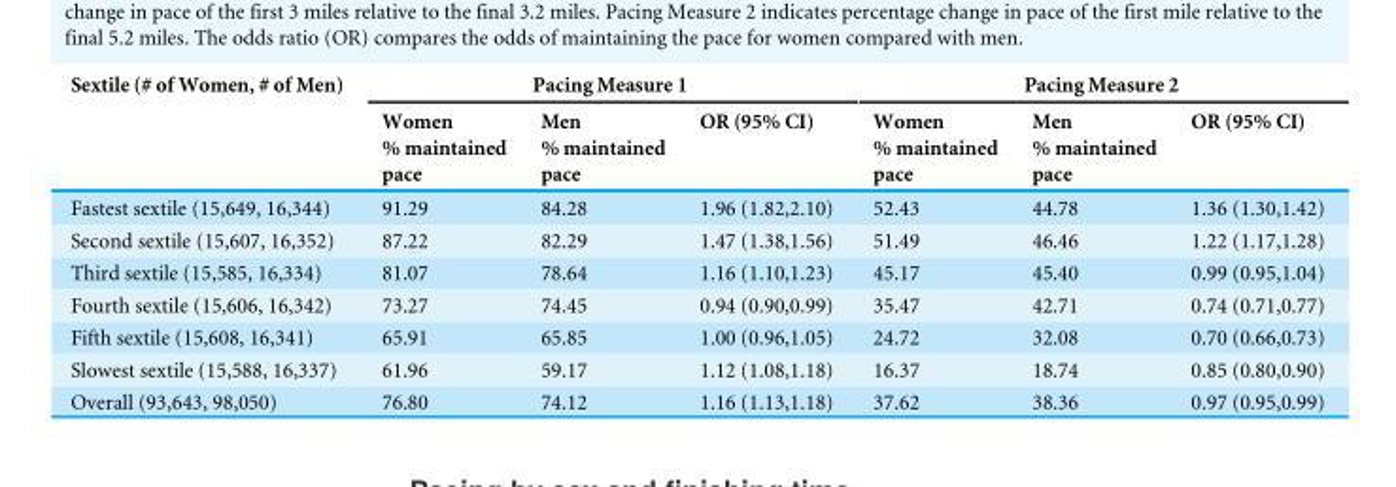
<table><thead><tr><td rowspan="3">Sextile (# of Women, # of Men)</td><td colspan="3">Pacing Measure 1</td><td colspan="3">Pacing Measure 2</td></tr><tr><td rowspan="2">Women % maintained pace</td><td rowspan="2">Men % maintained pace</td><td rowspan="2">OR (95% CI)</td><td rowspan="2">Women % maintained pace</td><td rowspan="2">Men % maintained pace</td><td rowspan="2">OR (95% CI)</td></tr><tr></tr></thead><tbody><tr><td>Fastest sextile (15,649, 16,344)</td><td>91.29</td><td>84.28</td><td>1.96 (1.82,2.10)</td><td>52.43</td><td>44.78</td><td>1.36 (1.30,1.42)</td></tr><tr><td>Second sextile (15,607, 16,352)</td><td>87.22</td><td>82.29</td><td>1.47 (1.38,1.56)</td><td>51.49</td><td>46.46</td><td>1.22 (1.17,1.28)</td></tr><tr><td>Third sextile (15,585, 16,334)</td><td>81.07</td><td>78.64</td><td>1.16 (1.10,1.23)</td><td>45.17</td><td>45.40</td><td>0.99 (0.95,1.04)</td></tr><tr><td>Fourth sextile (15,606, 16,342)</td><td>73.27</td><td>74.45</td><td>0.94 (0.90,0.99)</td><td>35.47</td><td>42.71</td><td>0.74 (0.71,0.77)</td></tr><tr><td>Fifth sextile (15,608, 16,341)</td><td>65.91</td><td>65.85</td><td>1.00 (0.96,1.05)</td><td>24.72</td><td>32.08</td><td>0.70 (0.66,0.73)</td></tr><tr><td>Slowest sextile (15,588, 16,337)</td><td>61.96</td><td>59.17</td><td>1.12 (1.08,1.18)</td><td>16.37</td><td>18.74</td><td>0.85 (0.80,0.90)</td></tr><tr><td>Overall (93,643, 98,050)</td><td>76.80</td><td>74.12</td><td>1.16 (1.13,1.18)</td><td>37.62</td><td>38.36</td><td>0.97 (0.95,0.99)</td></tr></tbody></table>